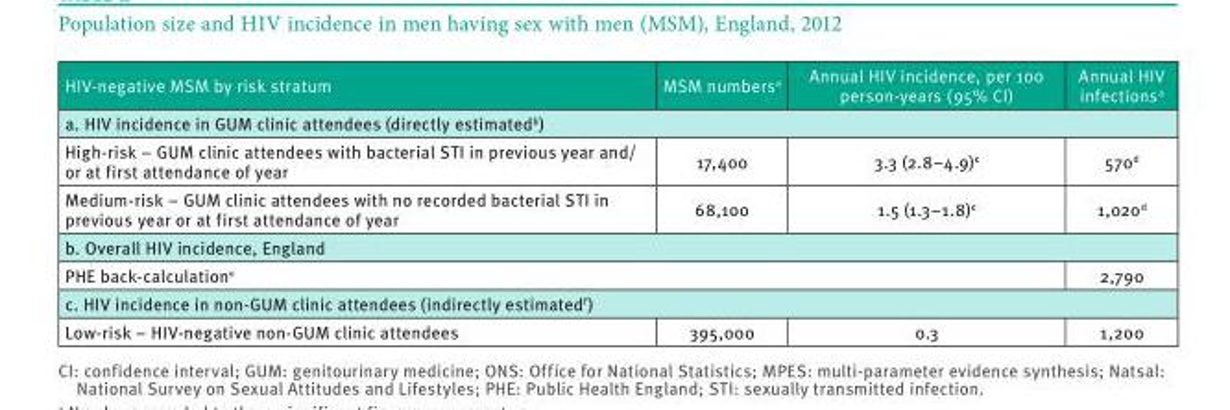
<table><thead><tr><td>HIV-negative MSM by risk stratum</td><td>MSM numbers<sup>a</sup></td><td>Annual HIV incidence, per 100 person-years (95% CI)</td><td>Annual HIV infections<sup>a</sup></td></tr></thead><tbody><tr><td colspan="4">a. HIV incidence in GUM clinic attendees (directly estimated<sup>b</sup>)</td></tr><tr><td>High-risk – GUM clinic attendees with bacterial STI in previous year and/ or at first attendance of year</td><td>17,400</td><td>3.3 (2.8–4.9)<sup>c</sup></td><td>570<sup>d</sup></td></tr><tr><td>Medium-risk – GUM clinic attendees with no recorded bacterial STI in previous year or at first attendance of year</td><td>68,100</td><td>1.5 (1.3–1.8)<sup>c</sup></td><td>1,020<sup>d</sup></td></tr><tr><td colspan="4">b. Overall HIV incidence, England</td></tr><tr><td colspan="3">PHE back-calculation<sup>e</sup></td><td>2,790</td></tr><tr><td colspan="4">c. HIV incidence in non-GUM clinic attendees (indirectly estimated<sup>f</sup>)</td></tr><tr><td>Low-risk – HIV-negative non-GUM clinic attendees</td><td>395,000</td><td>0.3</td><td>1,200</td></tr></tbody></table>